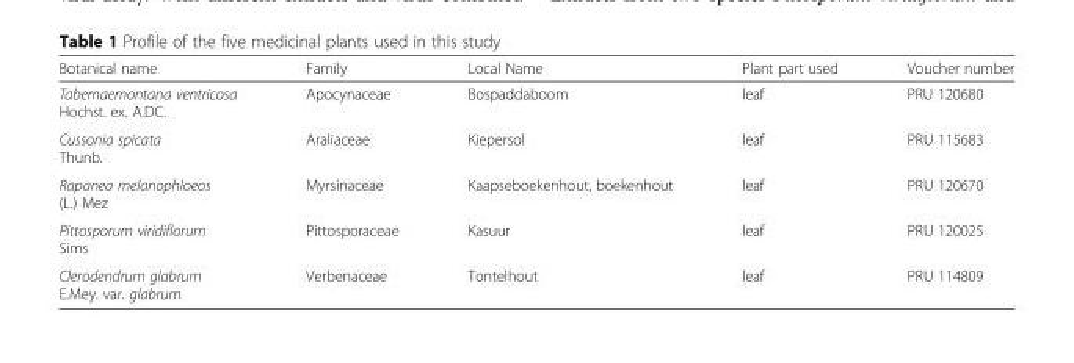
<table><thead><tr><td>Botanical name</td><td>Family</td><td>Local Name</td><td>Plant part used</td><td>Voucher number</td></tr></thead><tbody><tr><td>Tabernaemontana ventricosa Hochst. ex. A.DC.</td><td>Apocynaceae</td><td>Bospaddaboom</td><td>leaf</td><td>PRU 120680</td></tr><tr><td>Cussonia spicata Thunb.</td><td>Araliaceae</td><td>Kiepersol</td><td>leaf</td><td>PRU 115683</td></tr><tr><td>Rapanea melanophloeos (L.) Mez</td><td>Myrsinaceae</td><td>Kaapseboekenhout, boekenhout</td><td>leaf</td><td>PRU 120670</td></tr><tr><td>Pittosporum viridiflorum Sims</td><td>Pittosporaceae</td><td>Kasuur</td><td>leaf</td><td>PRU 120025</td></tr><tr><td>Clerodendrum glabrum E.Mey. var. glabrum</td><td>Verbenaceae</td><td>Tontelhout</td><td>leaf</td><td>PRU 114809</td></tr></tbody></table>